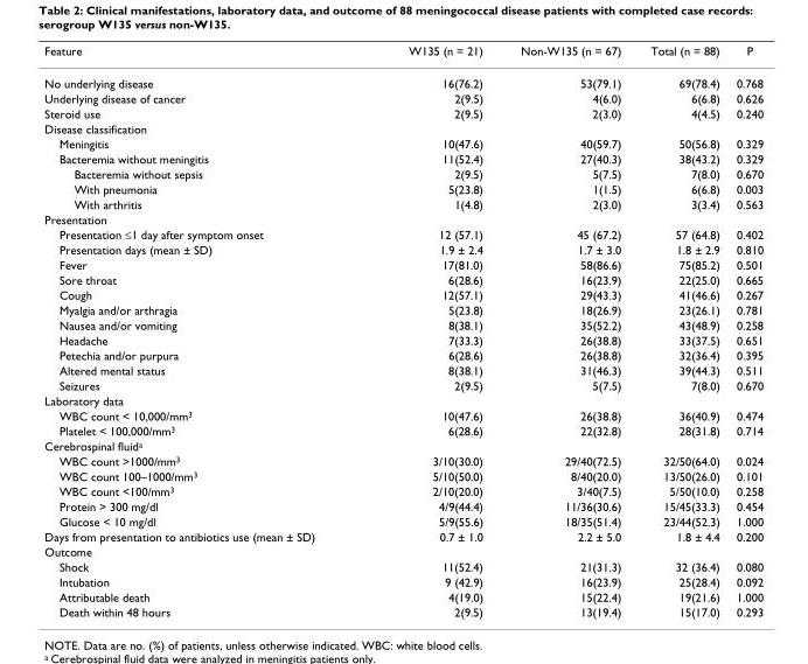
<table><thead><tr><td>Feature</td><td>W135 (n = 21)</td><td>Non-W135 (n = 67)</td><td>Total (n = 88)</td><td>P</td></tr></thead><tbody><tr><td>No underlying disease</td><td>16(76.2)</td><td>53(79.1)</td><td>69(78.4)</td><td>0.768</td></tr><tr><td>Underlying disease of cancer</td><td>2(9.5)</td><td>4(6.0)</td><td>6(6.8)</td><td>0.626</td></tr><tr><td>Steroid use</td><td>2(9.5)</td><td>2(3.0)</td><td>4(4.5)</td><td>0.240</td></tr><tr><td colspan="5">Disease classification</td></tr><tr><td>Meningitis</td><td>10(47.6)</td><td>40(59.7)</td><td>50(56.8)</td><td>0.329</td></tr><tr><td>Bacteremia without meningitis</td><td>11(52.4)</td><td>27(40.3)</td><td>38(43.2)</td><td>0.329</td></tr><tr><td>Bacteremia without sepsis</td><td>2(9.5)</td><td>5(7.5)</td><td>7(8.0)</td><td>0.670</td></tr><tr><td>With pneumonia</td><td>5(23.8)</td><td>1(1.5)</td><td>6(6.8)</td><td>0.003</td></tr><tr><td>With arthritis</td><td>1(4.8)</td><td>2(3.0)</td><td>3(3.4)</td><td>0.563</td></tr><tr><td colspan="5">Presentation</td></tr><tr><td>Presentation ≤1 day after symptom onset</td><td>12 (57.1)</td><td>45 (67.2)</td><td>57 (64.8)</td><td>0.402</td></tr><tr><td>Presentation days (mean ± SD)</td><td>1.9 ± 2.4</td><td>1.7 ± 3.0</td><td>1.8 ± 2.9</td><td>0.810</td></tr><tr><td>Fever</td><td>17(81.0)</td><td>58(86.6)</td><td>75(85.2)</td><td>0.501</td></tr><tr><td>Sore throat</td><td>6(28.6)</td><td>16(23.9)</td><td>22(25.0)</td><td>0.665</td></tr><tr><td>Cough</td><td>12(57.1)</td><td>29(43.3)</td><td>41(46.6)</td><td>0.267</td></tr><tr><td>Myalgia and/or arthragia</td><td>5(23.8)</td><td>18(26.9)</td><td>23(26.1)</td><td>0.781</td></tr><tr><td>Nausea and/or vomiting</td><td>8(38.1)</td><td>35(52.2)</td><td>43(48.9)</td><td>0.258</td></tr><tr><td>Headache</td><td>7(33.3)</td><td>26(38.8)</td><td>33(37.5)</td><td>0.651</td></tr><tr><td>Petechia and/or purpura</td><td>6(28.6)</td><td>26(38.8)</td><td>32(36.4)</td><td>0.395</td></tr><tr><td>Altered mental status</td><td>8(38.1)</td><td>31(46.3)</td><td>39(44.3)</td><td>0.511</td></tr><tr><td>Seizures</td><td>2(9.5)</td><td>5(7.5)</td><td>7(8.0)</td><td>0.670</td></tr><tr><td colspan="5">Laboratory data</td></tr><tr><td>WBC count &lt; 10,000/mm<sup>3</sup></td><td>10(47.6)</td><td>26(38.8)</td><td>36(40.9)</td><td>0.474</td></tr><tr><td>Platelet &lt; 100,000/mm<sup>3</sup></td><td>6(28.6)</td><td>22(32.8)</td><td>28(31.8)</td><td>0.714</td></tr><tr><td colspan="5">Cerebrospinal fluid<sup>a</sup></td></tr><tr><td>WBC count &gt;1000/mm<sup>3</sup></td><td>3/10(30.0)</td><td>29/40(72.5)</td><td>32/50(64.0)</td><td>0.024</td></tr><tr><td>WBC count 100–1000/mm<sup>3</sup></td><td>5/10(50.0)</td><td>8/40(20.0)</td><td>13/50(26.0)</td><td>0.101</td></tr><tr><td>WBC count &lt;100/mm<sup>3</sup></td><td>2/10(20.0)</td><td>3/40(7.5)</td><td>5/50(10.0)</td><td>0.258</td></tr><tr><td>Protein &gt; 300 mg/dl</td><td>4/9(44.4)</td><td>11/36(30.6)</td><td>15/45(33.3)</td><td>0.454</td></tr><tr><td>Glucose &lt; 10 mg/dl</td><td>5/9(55.6)</td><td>18/35(51.4)</td><td>23/44(52.3)</td><td>1.000</td></tr><tr><td>Days from presentation to antibiotics use (mean ± SD)</td><td>0.7 ± 1.0</td><td>2.2 ± 5.0</td><td>1.8 ± 4.4</td><td>0.200</td></tr><tr><td colspan="5">Outcome</td></tr><tr><td>Shock</td><td>11(52.4)</td><td>21(31.3)</td><td>32 (36.4)</td><td>0.080</td></tr><tr><td>Intubation</td><td>9 (42.9)</td><td>16(23.9)</td><td>25(28.4)</td><td>0.092</td></tr><tr><td>Attributable death</td><td>4(19.0)</td><td>15(22.4)</td><td>19(21.6)</td><td>1.000</td></tr><tr><td>Death within 48 hours</td><td>2(9.5)</td><td>13(19.4)</td><td>15(17.0)</td><td>0.293</td></tr></tbody></table>